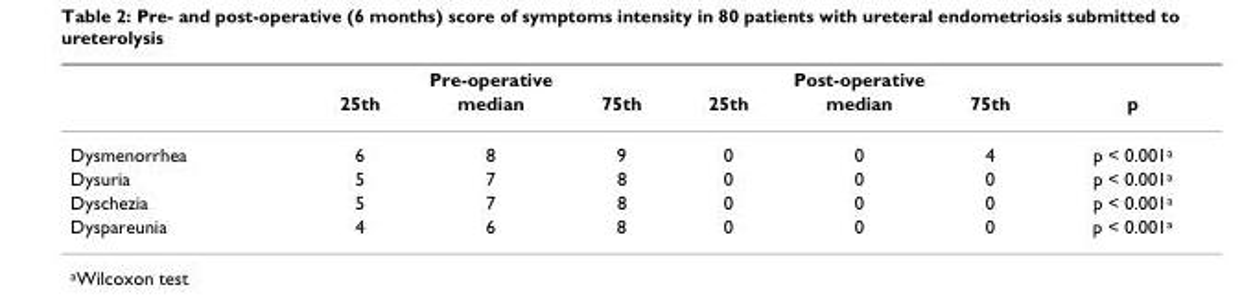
<table><thead><tr><td rowspan="2"></td><td colspan="3">Pre-operative</td><td colspan="3">Post-operative</td><td rowspan="2">p</td></tr><tr><td>25th</td><td>median</td><td>75th</td><td>25th</td><td>median</td><td>75th</td></tr></thead><tbody><tr><td>Dysmenorrhea</td><td>6</td><td>8</td><td>9</td><td>0</td><td>0</td><td>4</td><td>p &lt; 0.001<sup>a</sup></td></tr><tr><td>Dysuria</td><td>5</td><td>7</td><td>8</td><td>0</td><td>0</td><td>0</td><td>p &lt; 0.001<sup>a</sup></td></tr><tr><td>Dyschezia</td><td>5</td><td>7</td><td>8</td><td>0</td><td>0</td><td>0</td><td>p &lt; 0.001<sup>a</sup></td></tr><tr><td>Dyspareunia</td><td>4</td><td>6</td><td>8</td><td>0</td><td>0</td><td>0</td><td>p &lt; 0.001<sup>a</sup></td></tr></tbody></table>